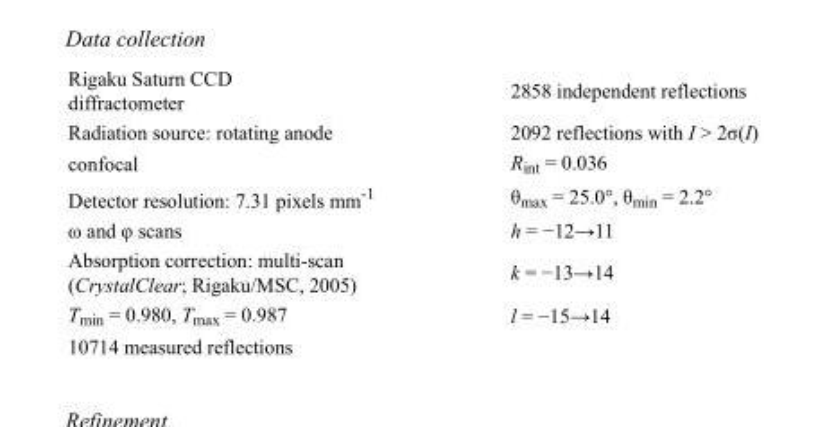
<table><tbody><tr><td>Rigaku Saturn CCD diffractometer</td><td>2858 independent reflections</td></tr><tr><td>Radiation source: rotating anode</td><td>2092 reflections with I &gt; 2σ(I)</td></tr><tr><td>confocal</td><td>R<sub>int</sub> = 0.036</td></tr><tr><td>Detector resolution: 7.31 pixels mm<sup>-1</sup></td><td>θ<sub>max</sub> = 25.0°, θ<sub>min</sub> = 2.2°</td></tr><tr><td>ω and φ scans</td><td>h = −12→11</td></tr><tr><td>Absorption correction: multi-scan (CrystalClear; Rigaku/MSC, 2005)</td><td>k = −13→14</td></tr><tr><td>T<sub>min</sub> = 0.980, T<sub>max</sub> = 0.987</td><td>l = −15→14</td></tr><tr><td>10714 measured reflections</td><td></td></tr></tbody></table>